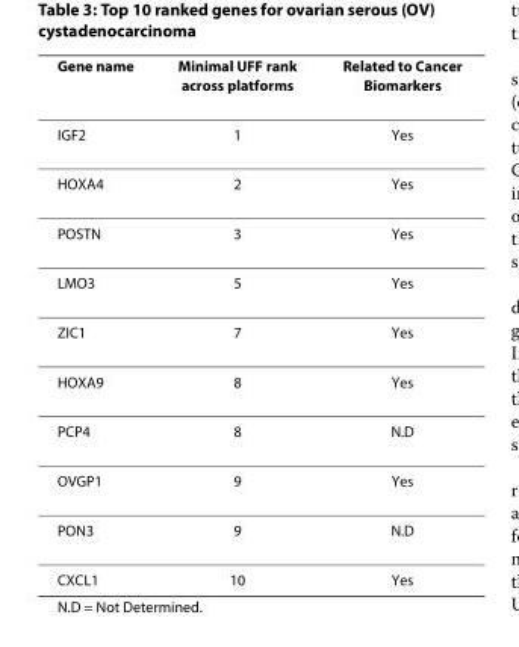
<table><thead><tr><td>Gene name</td><td>Minimal UFF rank across platforms</td><td>Related to Cancer Biomarkers</td></tr></thead><tbody><tr><td>IGF2</td><td>1</td><td>Yes</td></tr><tr><td>HOXA4</td><td>2</td><td>Yes</td></tr><tr><td>POSTN</td><td>3</td><td>Yes</td></tr><tr><td>LMO3</td><td>5</td><td>Yes</td></tr><tr><td>ZIC1</td><td>7</td><td>Yes</td></tr><tr><td>HOXA9</td><td>8</td><td>Yes</td></tr><tr><td>PCP4</td><td>8</td><td>N.D</td></tr><tr><td>OVGP1</td><td>9</td><td>Yes</td></tr><tr><td>PON3</td><td>9</td><td>N.D</td></tr><tr><td>CXCL1</td><td>10</td><td>Yes</td></tr></tbody></table>